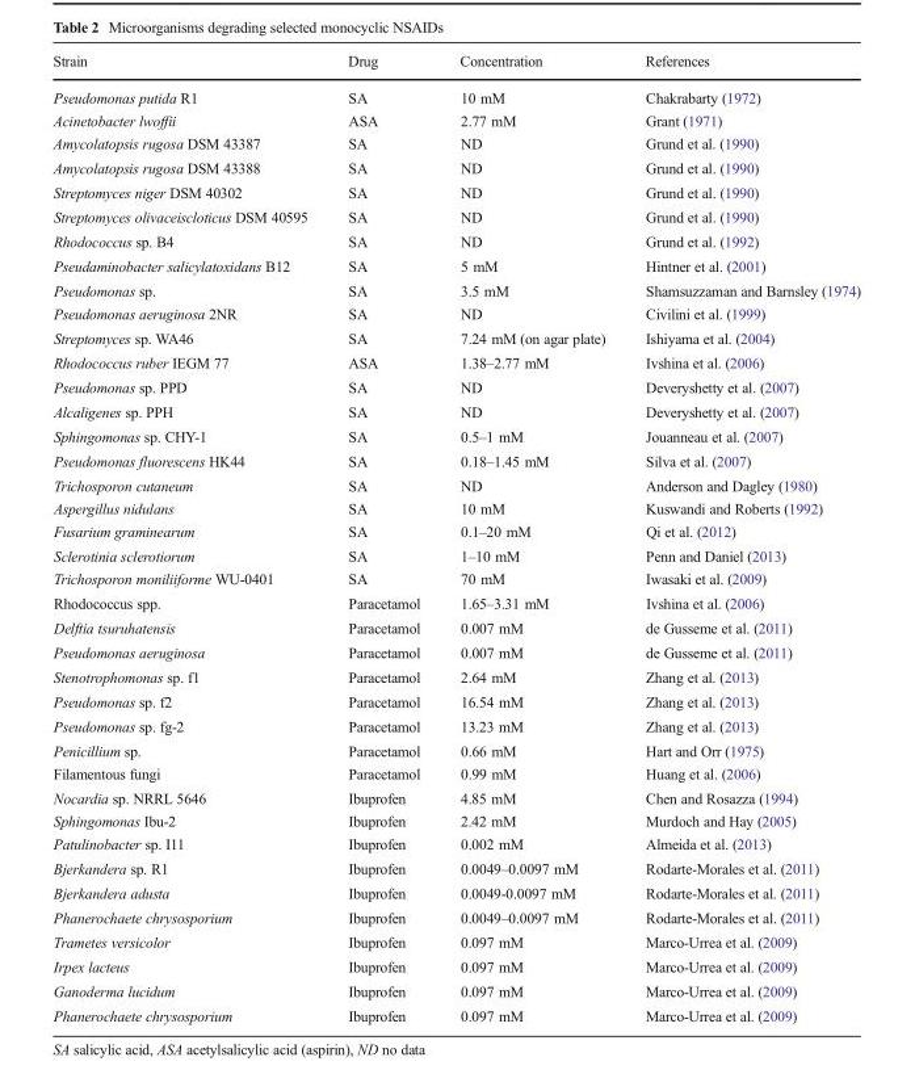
<table><thead><tr><td>Strain</td><td>Drug</td><td>Concentration</td><td>References</td></tr></thead><tbody><tr><td>Pseudomonas putida R1</td><td>SA</td><td>10 mM</td><td>Chakrabarty (1972)</td></tr><tr><td>Acinetobacter lwoffii</td><td>ASA</td><td>2.77 mM</td><td>Grant (1971)</td></tr><tr><td>Amycolatopsis rugosa DSM 43387</td><td>SA</td><td>ND</td><td>Grund et al. (1990)</td></tr><tr><td>Amycolatopsis rugosa DSM 43388</td><td>SA</td><td>ND</td><td>Grund et al. (1990)</td></tr><tr><td>Streptomyces niger DSM 40302</td><td>SA</td><td>ND</td><td>Grund et al. (1990)</td></tr><tr><td>Streptomyces olivaceiscloticus DSM 40595</td><td>SA</td><td>ND</td><td>Grund et al. (1990)</td></tr><tr><td>Rhodococcus sp. B4</td><td>SA</td><td>ND</td><td>Grund et al. (1992)</td></tr><tr><td>Pseudaminobacter salicylatoxidans B12</td><td>SA</td><td>5 mM</td><td>Hintner et al. (2001)</td></tr><tr><td>Pseudomonas sp.</td><td>SA</td><td>3.5 mM</td><td>Shamsuzzaman and Barnsley (1974)</td></tr><tr><td>Pseudomonas aeruginosa 2NR</td><td>SA</td><td>ND</td><td>Civilini et al. (1999)</td></tr><tr><td>Streptomyces sp. WA46</td><td>SA</td><td>7.24 mM (on agar plate)</td><td>Ishiyama et al. (2004)</td></tr><tr><td>Rhodococcus ruber IEGM 77</td><td>ASA</td><td>1.38–2.77 mM</td><td>Ivshina et al. (2006)</td></tr><tr><td>Pseudomonas sp. PPD</td><td>SA</td><td>ND</td><td>Deveryshetty et al. (2007)</td></tr><tr><td>Alcaligenes sp. PPH</td><td>SA</td><td>ND</td><td>Deveryshetty et al. (2007)</td></tr><tr><td>Sphingomonas sp. CHY-1</td><td>SA</td><td>0.5–1 mM</td><td>Jouanneau et al. (2007)</td></tr><tr><td>Pseudomonas fluorescens HK44</td><td>SA</td><td>0.18–1.45 mM</td><td>Silva et al. (2007)</td></tr><tr><td>Trichosporon cutaneum</td><td>SA</td><td>ND</td><td>Anderson and Dagley (1980)</td></tr><tr><td>Aspergillus nidulans</td><td>SA</td><td>10 mM</td><td>Kuswandi and Roberts (1992)</td></tr><tr><td>Fusarium graminearum</td><td>SA</td><td>0.1–20 mM</td><td>Qi et al. (2012)</td></tr><tr><td>Sclerotinia sclerotiorum</td><td>SA</td><td>1–10 mM</td><td>Penn and Daniel (2013)</td></tr><tr><td>Trichosporon moniliiforme WU-0401</td><td>SA</td><td>70 mM</td><td>Iwasaki et al. (2009)</td></tr><tr><td>Rhodococcus spp.</td><td>Paracetamol</td><td>1.65–3.31 mM</td><td>Ivshina et al. (2006)</td></tr><tr><td>Delftia tsuruhatensis</td><td>Paracetamol</td><td>0.007 mM</td><td>de Gusseme et al. (2011)</td></tr><tr><td>Pseudomonas aeruginosa</td><td>Paracetamol</td><td>0.007 mM</td><td>de Gusseme et al. (2011)</td></tr><tr><td>Stenotrophomonas sp. f1</td><td>Paracetamol</td><td>2.64 mM</td><td>Zhang et al. (2013)</td></tr><tr><td>Pseudomonas sp. f2</td><td>Paracetamol</td><td>16.54 mM</td><td>Zhang et al. (2013)</td></tr><tr><td>Pseudomonas sp. fg-2</td><td>Paracetamol</td><td>13.23 mM</td><td>Zhang et al. (2013)</td></tr><tr><td>Penicillium sp.</td><td>Paracetamol</td><td>0.66 mM</td><td>Hart and Orr (1975)</td></tr><tr><td>Filamentous fungi</td><td>Paracetamol</td><td>0.99 mM</td><td>Huang et al. (2006)</td></tr><tr><td>Nocardia sp. NRRL 5646</td><td>Ibuprofen</td><td>4.85 mM</td><td>Chen and Rosazza (1994)</td></tr><tr><td>Sphingomonas Ibu-2</td><td>Ibuprofen</td><td>2.42 mM</td><td>Murdoch and Hay (2005)</td></tr><tr><td>Patulinobacter sp. I11</td><td>Ibuprofen</td><td>0.002 mM</td><td>Almeida et al. (2013)</td></tr><tr><td>Bjerkandera sp. R1</td><td>Ibuprofen</td><td>0.0049–0.0097 mM</td><td>Rodarte-Morales et al. (2011)</td></tr><tr><td>Bjerkandera adusta</td><td>Ibuprofen</td><td>0.0049-0.0097 mM</td><td>Rodarte-Morales et al. (2011)</td></tr><tr><td>Phanerochaete chrysosporium</td><td>Ibuprofen</td><td>0.0049–0.0097 mM</td><td>Rodarte-Morales et al. (2011)</td></tr><tr><td>Trametes versicolor</td><td>Ibuprofen</td><td>0.097 mM</td><td>Marco-Urrea et al. (2009)</td></tr><tr><td>Irpex lacteus</td><td>Ibuprofen</td><td>0.097 mM</td><td>Marco-Urrea et al. (2009)</td></tr><tr><td>Ganoderma lucidum</td><td>Ibuprofen</td><td>0.097 mM</td><td>Marco-Urrea et al. (2009)</td></tr><tr><td>Phanerochaete chrysosporium</td><td>Ibuprofen</td><td>0.097 mM</td><td>Marco-Urrea et al. (2009)</td></tr></tbody></table>